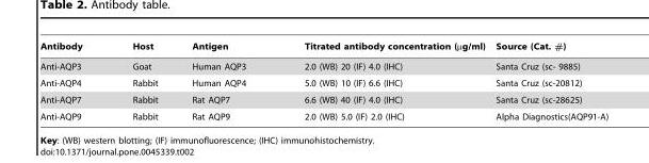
<table><thead><tr><td>Antibody</td><td>Host</td><td>Antigen</td><td>Titrated antibody concentration (µg/ml)</td><td>Source (Cat. #)</td></tr></thead><tbody><tr><td>Anti-AQP3</td><td>Goat</td><td>Human AQP3</td><td>2.0 (WB) 20 (IF) 4.0 (IHC)</td><td>Santa Cruz (sc- 9885)</td></tr><tr><td>Anti-AQP4</td><td>Rabbit</td><td>Human AQP4</td><td>5.0 (WB) 10 (IF) 6.6 (IHC)</td><td>Santa Cruz (sc-20812)</td></tr><tr><td>Anti-AQP7</td><td>Rabbit</td><td>Rat AQP7</td><td>6.6 (WB) 40 (IF) 4.0 (IHC)</td><td>Santa Cruz (sc-28625)</td></tr><tr><td>Anti-AQP9</td><td>Rabbit</td><td>Rat AQP9</td><td>2.0 (WB) 5.0 (IF) 2.0 (IHC)</td><td>Alpha Diagnostics(AQP91-A)</td></tr></tbody></table>